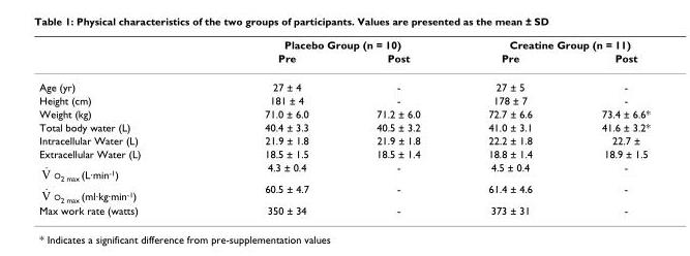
<table><thead><tr><td rowspan="2"></td><td colspan="2">Placebo Group (n = 10)</td><td colspan="2">Creatine Group (n = 11)</td></tr><tr><td>Pre</td><td>Post</td><td>Pre</td><td>Post</td></tr></thead><tbody><tr><td>Age (yr)</td><td>27 ± 4</td><td>-</td><td>27 ± 5</td><td>-</td></tr><tr><td>Height (cm)</td><td>181 ± 4</td><td>-</td><td>178 ± 7</td><td>-</td></tr><tr><td>Weight (kg)</td><td>71.0 ± 6.0</td><td>71.2 ± 6.0</td><td>72.7 ± 6.6</td><td>73.4 ± 6.6*</td></tr><tr><td>Total body water (L)</td><td>40.4 ± 3.3</td><td>40.5 ± 3.2</td><td>41.0 ± 3.1</td><td>41.6 ± 3.2*</td></tr><tr><td>Intracellular Water (L)</td><td>21.9 ± 1.8</td><td>21.9 ± 1.8</td><td>22.2 ± 1.8</td><td>22.7 ±</td></tr><tr><td>Extracellular Water (L)</td><td>18.5 ± 1.5</td><td>18.5 ± 1.4</td><td>18.8 ± 1.4</td><td>18.9 ± 1.5</td></tr><tr><td>O2 max (L·min-1) �V</td><td>4.3 ± 0.4</td><td>-</td><td>4.5 ± 0.4</td><td>-</td></tr><tr><td>O2 max (ml·kg·min-1) �V</td><td>60.5 ± 4.7</td><td>-</td><td>61.4 ± 4.6</td><td>-</td></tr><tr><td>Max work rate (watts)</td><td>350 ± 34</td><td>-</td><td>373 ± 31</td><td>-</td></tr></tbody></table>